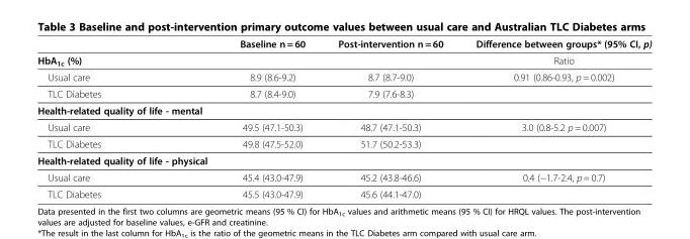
<table><thead><tr><td></td><td>Baseline n = 60</td><td>Post-intervention n = 60</td><td>Difference between groups* (95% CI, p)</td></tr></thead><tbody><tr><td>HbA<sub>1c</sub> (%)</td><td></td><td></td><td>Ratio</td></tr><tr><td>Usual care</td><td>8.9 (8.6-9.2)</td><td>8.7 (8.7-9.0)</td><td>0.91 (0.86-0.93, p = 0.002)</td></tr><tr><td>TLC Diabetes</td><td>8.7 (8.4-9.0)</td><td>7.9 (7.6-8.3)</td><td></td></tr><tr><td colspan="4">Health-related quality of life - mental</td></tr><tr><td>Usual care</td><td>49.5 (47.1-50.3)</td><td>48.7 (47.1-50.3)</td><td>3.0 (0.8-5.2 p = 0.007)</td></tr><tr><td>TLC Diabetes</td><td>49.8 (47.5-52.0)</td><td>51.7 (50.2-53.3)</td><td></td></tr><tr><td colspan="4">Health-related quality of life - physical</td></tr><tr><td>Usual care</td><td>45.4 (43.0-47.9)</td><td>45.2 (43.8-46.6)</td><td>0.4 (−1.7-2.4, p = 0.7)</td></tr><tr><td>TLC Diabetes</td><td>45.5 (43.0-47.9)</td><td>45.6 (44.1-47.0)</td><td></td></tr></tbody></table>